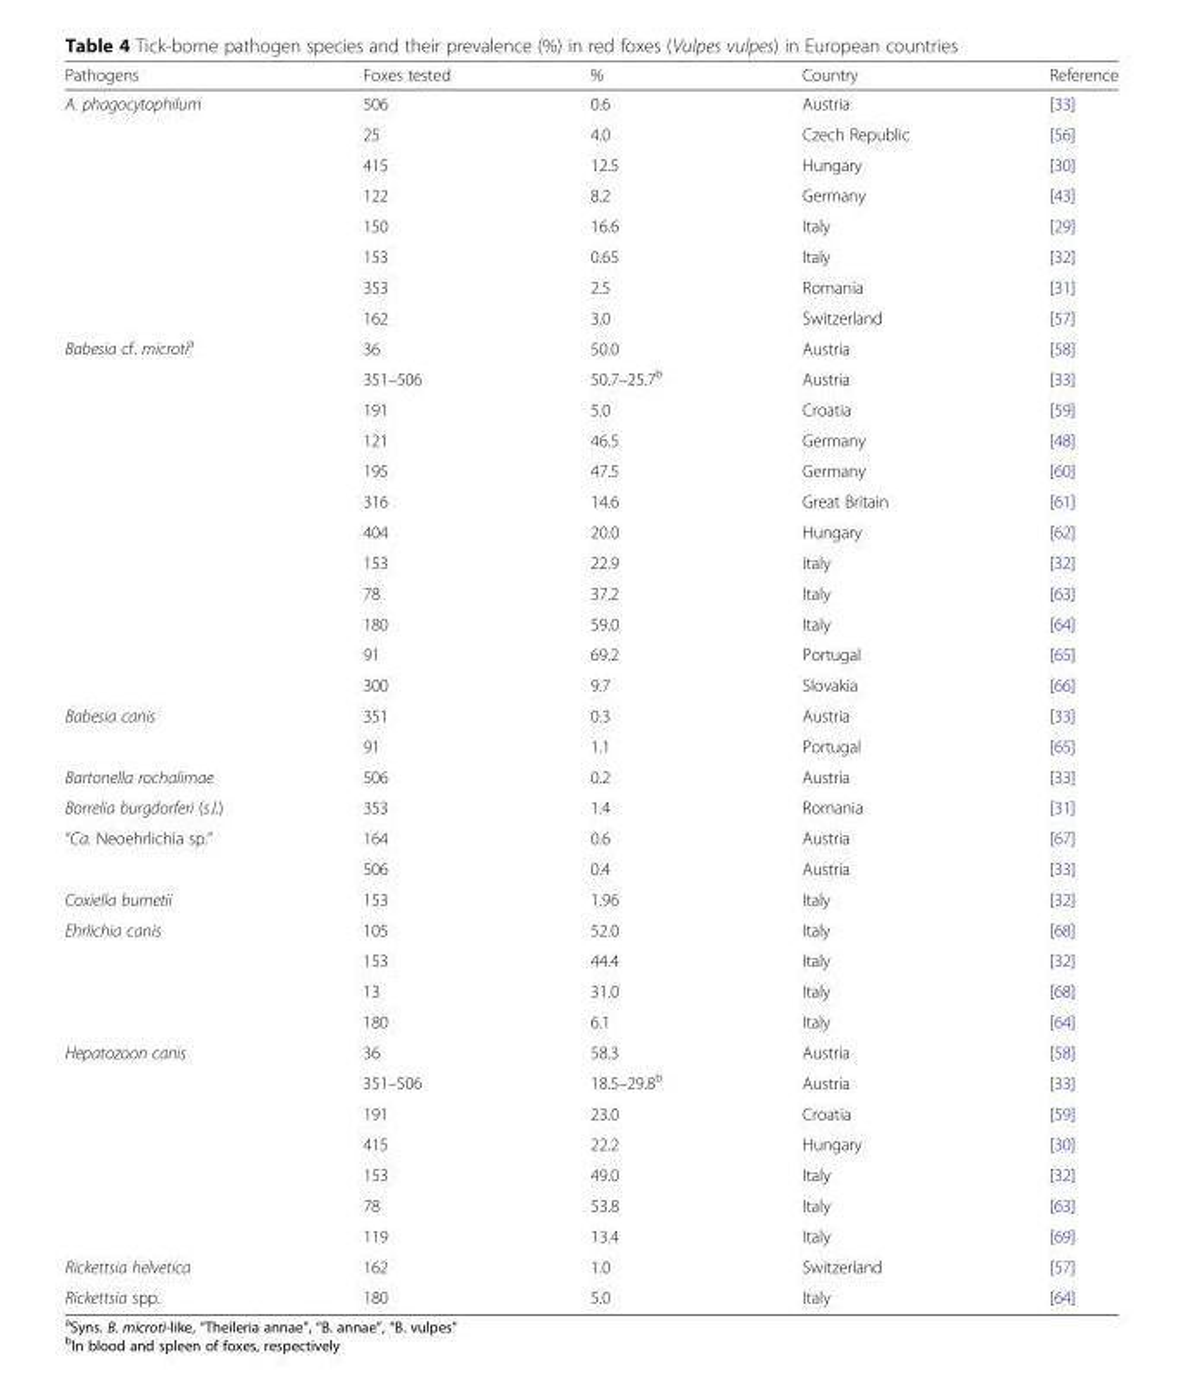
<table><thead><tr><td>Pathogens</td><td>Foxes tested</td><td>%</td><td>Country</td><td>Reference</td></tr></thead><tbody><tr><td rowspan="8">A. phagocytophilum</td><td>506</td><td>0.6</td><td>Austria</td><td>[33]</td></tr><tr><td>25</td><td>4.0</td><td>Czech Republic</td><td>[56]</td></tr><tr><td>415</td><td>12.5</td><td>Hungary</td><td>[30]</td></tr><tr><td>122</td><td>8.2</td><td>Germany</td><td>[43]</td></tr><tr><td>150</td><td>16.6</td><td>Italy</td><td>[29]</td></tr><tr><td>153</td><td>0.65</td><td>Italy</td><td>[32]</td></tr><tr><td>353</td><td>2.5</td><td>Romania</td><td>[31]</td></tr><tr><td>162</td><td>3.0</td><td>Switzerland</td><td>[57]</td></tr><tr><td rowspan="12">Babesia cf. microti<sup>a</sup></td><td>36</td><td>50.0</td><td>Austria</td><td>[58]</td></tr><tr><td>351–506</td><td>50.7–25.7<sup>b</sup></td><td>Austria</td><td>[33]</td></tr><tr><td>191</td><td>5.0</td><td>Croatia</td><td>[59]</td></tr><tr><td>121</td><td>46.5</td><td>Germany</td><td>[48]</td></tr><tr><td>195</td><td>47.5</td><td>Germany</td><td>[60]</td></tr><tr><td>316</td><td>14.6</td><td>Great Britain</td><td>[61]</td></tr><tr><td>404</td><td>20.0</td><td>Hungary</td><td>[62]</td></tr><tr><td>153</td><td>22.9</td><td>Italy</td><td>[32]</td></tr><tr><td>78</td><td>37.2</td><td>Italy</td><td>[63]</td></tr><tr><td>180</td><td>59.0</td><td>Italy</td><td>[64]</td></tr><tr><td>91</td><td>69.2</td><td>Portugal</td><td>[65]</td></tr><tr><td>300</td><td>9.7</td><td>Slovakia</td><td>[66]</td></tr><tr><td rowspan="2">Babesia canis</td><td>351</td><td>0.3</td><td>Austria</td><td>[33]</td></tr><tr><td>91</td><td>1.1</td><td>Portugal</td><td>[65]</td></tr><tr><td>Bartonella rochalimae</td><td>506</td><td>0.2</td><td>Austria</td><td>[33]</td></tr><tr><td>Borrelia burgdorferi (s.l.)</td><td>353</td><td>1.4</td><td>Romania</td><td>[31]</td></tr><tr><td rowspan="2">“Ca. Neoehrlichia sp.”</td><td>164</td><td>0.6</td><td>Austria</td><td>[67]</td></tr><tr><td>506</td><td>0.4</td><td>Austria</td><td>[33]</td></tr><tr><td>Coxiella burnetii</td><td>153</td><td>1.96</td><td>Italy</td><td>[32]</td></tr><tr><td rowspan="4">Ehrlichia canis</td><td>105</td><td>52.0</td><td>Italy</td><td>[68]</td></tr><tr><td>153</td><td>44.4</td><td>Italy</td><td>[32]</td></tr><tr><td>13</td><td>31.0</td><td>Italy</td><td>[68]</td></tr><tr><td>180</td><td>6.1</td><td>Italy</td><td>[64]</td></tr><tr><td rowspan="7">Hepatozoon canis</td><td>36</td><td>58.3</td><td>Austria</td><td>[58]</td></tr><tr><td>351–506</td><td>18.5–29.8<sup>b</sup></td><td>Austria</td><td>[33]</td></tr><tr><td>191</td><td>23.0</td><td>Croatia</td><td>[59]</td></tr><tr><td>415</td><td>22.2</td><td>Hungary</td><td>[30]</td></tr><tr><td>153</td><td>49.0</td><td>Italy</td><td>[32]</td></tr><tr><td>78</td><td>53.8</td><td>Italy</td><td>[63]</td></tr><tr><td>119</td><td>13.4</td><td>Italy</td><td>[69]</td></tr><tr><td>Rickettsia helvetica</td><td>162</td><td>1.0</td><td>Switzerland</td><td>[57]</td></tr><tr><td>Rickettsia spp.</td><td>180</td><td>5.0</td><td>Italy</td><td>[64]</td></tr></tbody></table>